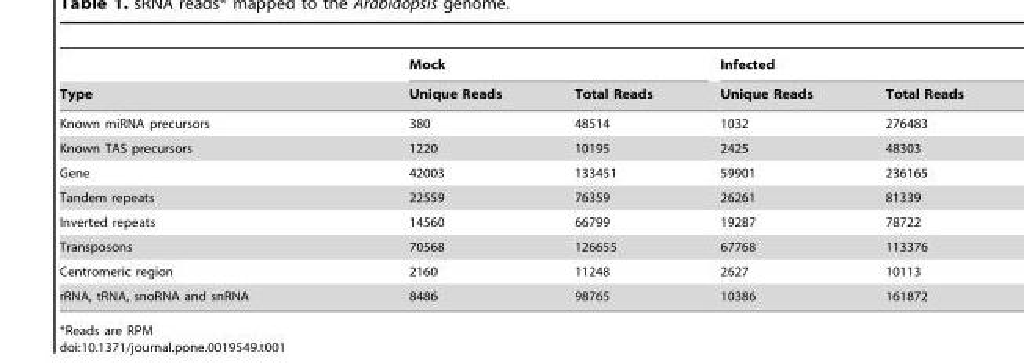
<table><thead><tr><td rowspan="2">Type</td><td colspan="2">Mock</td><td colspan="2">Infected</td></tr><tr><td>Unique Reads</td><td>Total Reads</td><td>Unique Reads</td><td>Total Reads</td></tr></thead><tbody><tr><td>Known miRNA precursors</td><td>380</td><td>48514</td><td>1032</td><td>276483</td></tr><tr><td>Known TAS precursors</td><td>1220</td><td>10195</td><td>2425</td><td>48303</td></tr><tr><td>Gene</td><td>42003</td><td>133451</td><td>59901</td><td>236165</td></tr><tr><td>Tandem repeats</td><td>22559</td><td>76359</td><td>26261</td><td>81339</td></tr><tr><td>Inverted repeats</td><td>14560</td><td>66799</td><td>19287</td><td>78722</td></tr><tr><td>Transposons</td><td>70568</td><td>126655</td><td>67768</td><td>113376</td></tr><tr><td>Centromeric region</td><td>2160</td><td>11248</td><td>2627</td><td>10113</td></tr><tr><td>rRNA, tRNA, snoRNA and snRNA</td><td>8486</td><td>98765</td><td>10386</td><td>161872</td></tr></tbody></table>